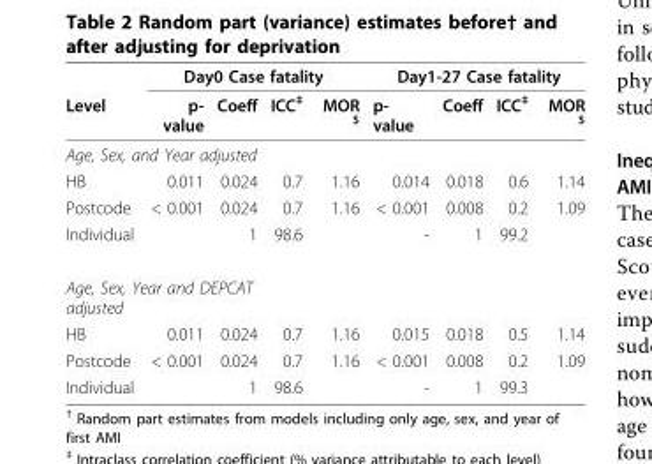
<table><thead><tr><td rowspan="2">Level</td><td colspan="4">Day0 Case fatality</td><td colspan="4">Day1-27 Case fatality</td></tr><tr><td>p- value</td><td>Coeff</td><td>ICC<sup>‡</sup></td><td>MOR <sup>$</sup></td><td>p- value</td><td>Coeff</td><td>ICC<sup>‡</sup></td><td>MOR <sup>$</sup></td></tr></thead><tbody><tr><td colspan="9">Age, Sex, and Year adjusted</td></tr><tr><td>HB</td><td>0.011</td><td>0.024</td><td>0.7</td><td>1.16</td><td>0.014</td><td>0.018</td><td>0.6</td><td>1.14</td></tr><tr><td>Postcode</td><td>&lt; 0.001</td><td>0.024</td><td>0.7</td><td>1.16</td><td>&lt; 0.001</td><td>0.008</td><td>0.2</td><td>1.09</td></tr><tr><td>Individual</td><td></td><td>1</td><td>98.6</td><td></td><td>-</td><td>1</td><td>99.2</td><td></td></tr><tr><td colspan="9">Age, Sex, Year and DEPCAT adjusted</td></tr><tr><td>HB</td><td>0.011</td><td>0.024</td><td>0.7</td><td>1.16</td><td>0.015</td><td>0.018</td><td>0.5</td><td>1.14</td></tr><tr><td>Postcode</td><td>&lt; 0.001</td><td>0.024</td><td>0.7</td><td>1.16</td><td>&lt; 0.001</td><td>0.008</td><td>0.2</td><td>1.09</td></tr><tr><td>Individual</td><td></td><td>1</td><td>98.6</td><td></td><td>-</td><td>1</td><td>99.3</td><td></td></tr></tbody></table>